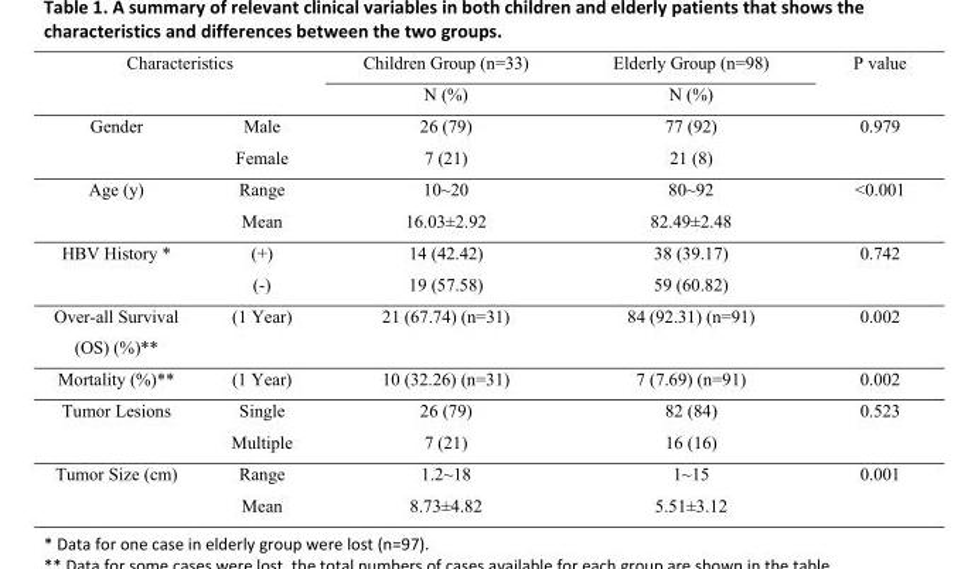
<table><tbody><tr><td rowspan="2" colspan="2">Characteristics</td><td>Children Group (n=33)</td><td>Elderly Group (n=98)</td><td rowspan="2">P value</td></tr><tr><td>N (%)</td><td>N (%)</td></tr><tr><td rowspan="2">Gender</td><td>Male</td><td>26 (79)</td><td>77 (92)</td><td rowspan="2">0.979</td></tr><tr><td>Female</td><td>7 (21)</td><td>21 (8)</td></tr><tr><td rowspan="2">Age (y)</td><td>Range</td><td>10~20</td><td>80~92</td><td rowspan="2">&lt;0.001</td></tr><tr><td>Mean</td><td>16.03±2.92</td><td>82.49±2.48</td></tr><tr><td rowspan="2">HBV History *</td><td>(+)</td><td>14 (42.42)</td><td>38 (39.17)</td><td rowspan="2">0.742</td></tr><tr><td>(-)</td><td>19 (57.58)</td><td>59 (60.82)</td></tr><tr><td>Over-all Survival (OS) (%)**</td><td>(1 Year)</td><td>21 (67.74) (n=31)</td><td>84 (92.31) (n=91)</td><td>0.002</td></tr><tr><td>Mortality (%)**</td><td>(1 Year)</td><td>10 (32.26) (n=31)</td><td>7 (7.69) (n=91)</td><td>0.002</td></tr><tr><td rowspan="2">Tumor Lesions</td><td>Single</td><td>26 (79)</td><td>82 (84)</td><td rowspan="2">0.523</td></tr><tr><td>Multiple</td><td>7 (21)</td><td>16 (16)</td></tr><tr><td rowspan="2">Tumor Size (cm)</td><td>Range</td><td>1.2~18</td><td>1~15</td><td rowspan="2">0.001</td></tr><tr><td>Mean</td><td>8.73±4.82</td><td>5.51±3.12</td></tr></tbody></table>